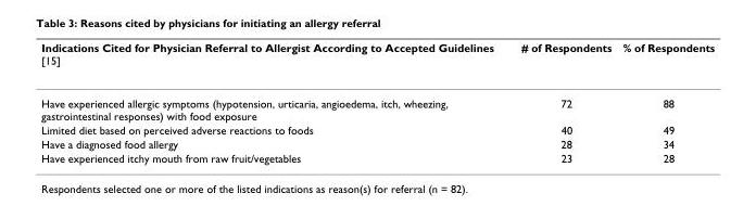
<table><thead><tr><td>Indications Cited for Physician Referral to Allergist According to Accepted Guidelines [15]</td><td># of Respondents</td><td>% of Respondents</td></tr></thead><tbody><tr><td>Have experienced allergic symptoms (hypotension, urticaria, angioedema, itch, wheezing, gastrointestinal responses) with food exposure</td><td>72</td><td>88</td></tr><tr><td>Limited diet based on perceived adverse reactions to foods</td><td>40</td><td>49</td></tr><tr><td>Have a diagnosed food allergy</td><td>28</td><td>34</td></tr><tr><td>Have experienced itchy mouth from raw fruit/vegetables</td><td>23</td><td>28</td></tr></tbody></table>